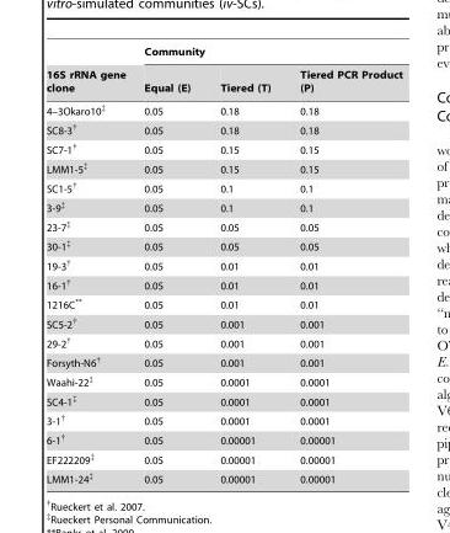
<table><thead><tr><td rowspan="2">16S rRNA gene clone</td><td colspan="3">Community</td></tr><tr><td>Equal (E)</td><td>Tiered (T)</td><td>Tiered PCR Product (P)</td></tr></thead><tbody><tr><td>4–3Okaro10‡</td><td>0.05</td><td>0.18</td><td>0.18</td></tr><tr><td>SC8-3†</td><td>0.05</td><td>0.18</td><td>0.18</td></tr><tr><td>SC7-1†</td><td>0.05</td><td>0.15</td><td>0.15</td></tr><tr><td>LMM1-5‡</td><td>0.05</td><td>0.15</td><td>0.15</td></tr><tr><td>SC1-5†</td><td>0.05</td><td>0.1</td><td>0.1</td></tr><tr><td>3-9‡</td><td>0.05</td><td>0.1</td><td>0.1</td></tr><tr><td>23-7‡</td><td>0.05</td><td>0.05</td><td>0.05</td></tr><tr><td>30-1‡</td><td>0.05</td><td>0.05</td><td>0.05</td></tr><tr><td>19-3†</td><td>0.05</td><td>0.01</td><td>0.01</td></tr><tr><td>16-1†</td><td>0.05</td><td>0.01</td><td>0.01</td></tr><tr><td>1216C**</td><td>0.05</td><td>0.01</td><td>0.01</td></tr><tr><td>SC5-2†</td><td>0.05</td><td>0.001</td><td>0.001</td></tr><tr><td>29-2†</td><td>0.05</td><td>0.001</td><td>0.001</td></tr><tr><td>Forsyth-N6†</td><td>0.05</td><td>0.001</td><td>0.001</td></tr><tr><td>Waahi-22‡</td><td>0.05</td><td>0.0001</td><td>0.0001</td></tr><tr><td>SC4-1‡</td><td>0.05</td><td>0.0001</td><td>0.0001</td></tr><tr><td>3-1†</td><td>0.05</td><td>0.0001</td><td>0.0001</td></tr><tr><td>6-1†</td><td>0.05</td><td>0.00001</td><td>0.00001</td></tr><tr><td>EF222209‡</td><td>0.05</td><td>0.00001</td><td>0.00001</td></tr><tr><td>LMM1-24‡</td><td>0.05</td><td>0.00001</td><td>0.00001</td></tr></tbody></table>